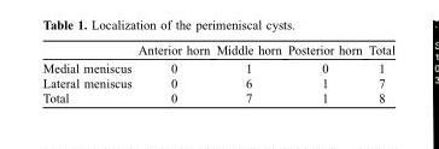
<table><thead><tr><td></td><td>Anterior horn</td><td>Middle horn</td><td>Posterior horn</td><td>Total</td></tr></thead><tbody><tr><td>Medial meniscus</td><td>0</td><td>1</td><td>0</td><td>1</td></tr><tr><td>Lateral meniscus</td><td>0</td><td>6</td><td>1</td><td>7</td></tr><tr><td>Total</td><td>0</td><td>7</td><td>1</td><td>8</td></tr></tbody></table>